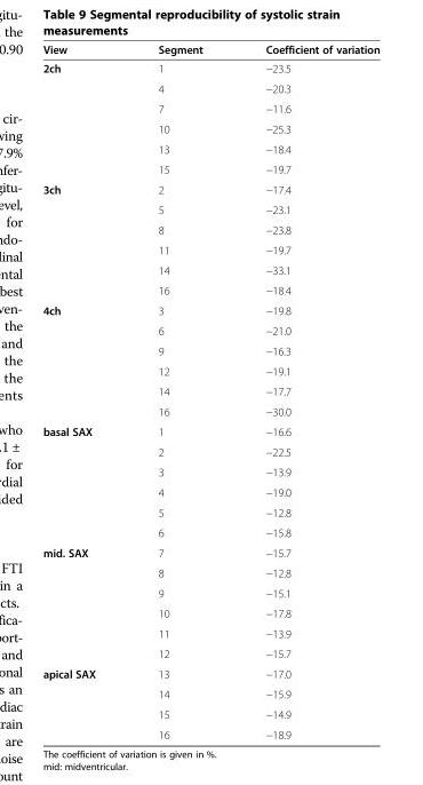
<table><thead><tr><td>View</td><td>Segment</td><td>Coefficient of variation</td></tr></thead><tbody><tr><td rowspan="6">2ch</td><td>1</td><td>−23.5</td></tr><tr><td>4</td><td>−20.3</td></tr><tr><td>7</td><td>−11.6</td></tr><tr><td>10</td><td>−25.3</td></tr><tr><td>13</td><td>−18.4</td></tr><tr><td>15</td><td>−19.7</td></tr><tr><td rowspan="6">3ch</td><td>2</td><td>−17.4</td></tr><tr><td>5</td><td>−23.1</td></tr><tr><td>8</td><td>−23.8</td></tr><tr><td>11</td><td>−19.7</td></tr><tr><td>14</td><td>−33.1</td></tr><tr><td>16</td><td>−18.4</td></tr><tr><td rowspan="6">4ch</td><td>3</td><td>−19.8</td></tr><tr><td>6</td><td>−21.0</td></tr><tr><td>9</td><td>−16.3</td></tr><tr><td>12</td><td>−19.1</td></tr><tr><td>14</td><td>−17.7</td></tr><tr><td>16</td><td>−30.0</td></tr><tr><td rowspan="6">basal SAX</td><td>1</td><td>−16.6</td></tr><tr><td>2</td><td>−22.5</td></tr><tr><td>3</td><td>−13.9</td></tr><tr><td>4</td><td>−19.0</td></tr><tr><td>5</td><td>−12.8</td></tr><tr><td>6</td><td>−15.8</td></tr><tr><td rowspan="6">mid. SAX</td><td>7</td><td>−15.7</td></tr><tr><td>8</td><td>−12.8</td></tr><tr><td>9</td><td>−15.1</td></tr><tr><td>10</td><td>−17.8</td></tr><tr><td>11</td><td>−13.9</td></tr><tr><td>12</td><td>−15.7</td></tr><tr><td rowspan="4">apical SAX</td><td>13</td><td>−17.0</td></tr><tr><td>14</td><td>−15.9</td></tr><tr><td>15</td><td>−14.9</td></tr><tr><td>16</td><td>−18.9</td></tr></tbody></table>